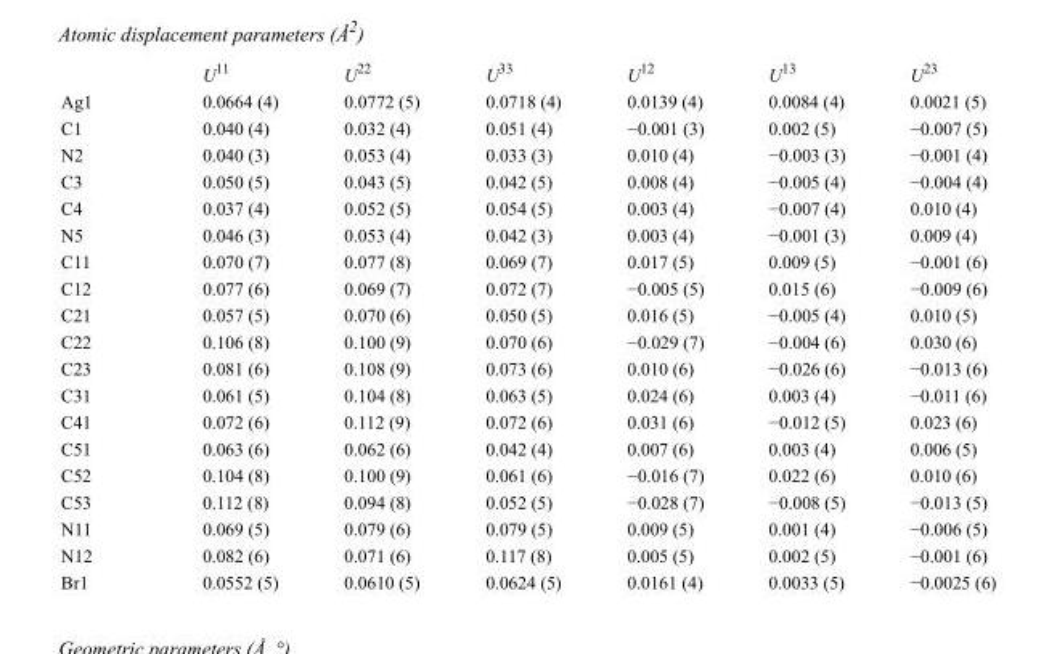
<table><thead><tr><td></td><td>U<sup>11</sup></td><td>U<sup>22</sup></td><td>U<sup>33</sup></td><td>U<sup>12</sup></td><td>U<sup>13</sup></td><td>U<sup>23</sup></td></tr></thead><tbody><tr><td>Ag1</td><td>0.0664 (4)</td><td>0.0772 (5)</td><td>0.0718 (4)</td><td>0.0139 (4)</td><td>0.0084 (4)</td><td>0.0021 (5)</td></tr><tr><td>C1</td><td>0.040 (4)</td><td>0.032 (4)</td><td>0.051 (4)</td><td>−0.001 (3)</td><td>0.002 (5)</td><td>−0.007 (5)</td></tr><tr><td>N2</td><td>0.040 (3)</td><td>0.053 (4)</td><td>0.033 (3)</td><td>0.010 (4)</td><td>−0.003 (3)</td><td>−0.001 (4)</td></tr><tr><td>C3</td><td>0.050 (5)</td><td>0.043 (5)</td><td>0.042 (5)</td><td>0.008 (4)</td><td>−0.005 (4)</td><td>−0.004 (4)</td></tr><tr><td>C4</td><td>0.037 (4)</td><td>0.052 (5)</td><td>0.054 (5)</td><td>0.003 (4)</td><td>−0.007 (4)</td><td>0.010 (4)</td></tr><tr><td>N5</td><td>0.046 (3)</td><td>0.053 (4)</td><td>0.042 (3)</td><td>0.003 (4)</td><td>−0.001 (3)</td><td>0.009 (4)</td></tr><tr><td>C11</td><td>0.070 (7)</td><td>0.077 (8)</td><td>0.069 (7)</td><td>0.017 (5)</td><td>0.009 (5)</td><td>−0.001 (6)</td></tr><tr><td>C12</td><td>0.077 (6)</td><td>0.069 (7)</td><td>0.072 (7)</td><td>−0.005 (5)</td><td>0.015 (6)</td><td>−0.009 (6)</td></tr><tr><td>C21</td><td>0.057 (5)</td><td>0.070 (6)</td><td>0.050 (5)</td><td>0.016 (5)</td><td>−0.005 (4)</td><td>0.010 (5)</td></tr><tr><td>C22</td><td>0.106 (8)</td><td>0.100 (9)</td><td>0.070 (6)</td><td>−0.029 (7)</td><td>−0.004 (6)</td><td>0.030 (6)</td></tr><tr><td>C23</td><td>0.081 (6)</td><td>0.108 (9)</td><td>0.073 (6)</td><td>0.010 (6)</td><td>−0.026 (6)</td><td>−0.013 (6)</td></tr><tr><td>C31</td><td>0.061 (5)</td><td>0.104 (8)</td><td>0.063 (5)</td><td>0.024 (6)</td><td>0.003 (4)</td><td>−0.011 (6)</td></tr><tr><td>C41</td><td>0.072 (6)</td><td>0.112 (9)</td><td>0.072 (6)</td><td>0.031 (6)</td><td>−0.012 (5)</td><td>0.023 (6)</td></tr><tr><td>C51</td><td>0.063 (6)</td><td>0.062 (6)</td><td>0.042 (4)</td><td>0.007 (6)</td><td>0.003 (4)</td><td>0.006 (5)</td></tr><tr><td>C52</td><td>0.104 (8)</td><td>0.100 (9)</td><td>0.061 (6)</td><td>−0.016 (7)</td><td>0.022 (6)</td><td>0.010 (6)</td></tr><tr><td>C53</td><td>0.112 (8)</td><td>0.094 (8)</td><td>0.052 (5)</td><td>−0.028 (7)</td><td>−0.008 (5)</td><td>−0.013 (5)</td></tr><tr><td>N11</td><td>0.069 (5)</td><td>0.079 (6)</td><td>0.079 (5)</td><td>0.009 (5)</td><td>0.001 (4)</td><td>−0.006 (5)</td></tr><tr><td>N12</td><td>0.082 (6)</td><td>0.071 (6)</td><td>0.117 (8)</td><td>0.005 (5)</td><td>0.002 (5)</td><td>−0.001 (6)</td></tr><tr><td>Br1</td><td>0.0552 (5)</td><td>0.0610 (5)</td><td>0.0624 (5)</td><td>0.0161 (4)</td><td>0.0033 (5)</td><td>−0.0025 (6)</td></tr></tbody></table>